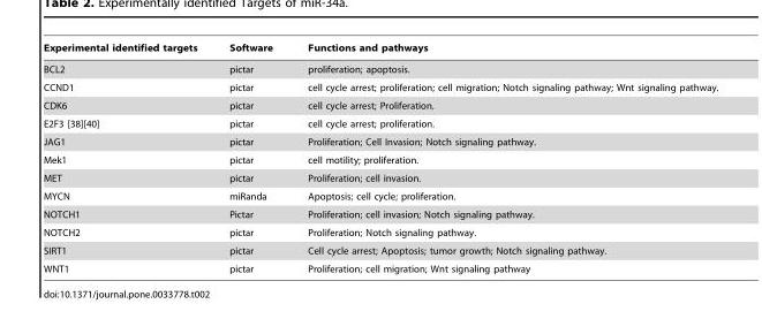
<table><thead><tr><td>Experimental identified targets</td><td>Software</td><td>Functions and pathways</td></tr></thead><tbody><tr><td>BCL2</td><td>pictar</td><td>proliferation; apoptosis.</td></tr><tr><td>CCND1</td><td>pictar</td><td>cell cycle arrest; proliferation; cell migration; Notch signaling pathway; Wnt signaling pathway.</td></tr><tr><td>CDK6</td><td>pictar</td><td>cell cycle arrest; Proliferation.</td></tr><tr><td>E2F3 [38][40]</td><td>pictar</td><td>cell cycle arrest; proliferation.</td></tr><tr><td>JAG1</td><td>pictar</td><td>Proliferation; Cell Invasion; Notch signaling pathway.</td></tr><tr><td>Mek1</td><td>pictar</td><td>cell motility; proliferation.</td></tr><tr><td>MET</td><td>pictar</td><td>Proliferation; cell invasion.</td></tr><tr><td>MYCN</td><td>miRanda</td><td>Apoptosis; cell cycle; proliferation.</td></tr><tr><td>NOTCH1</td><td>Pictar</td><td>Proliferation; cell invasion; Notch signaling pathway.</td></tr><tr><td>NOTCH2</td><td>pictar</td><td>Proliferation; Notch signaling pathway.</td></tr><tr><td>SIRT1</td><td>pictar</td><td>Cell cycle arrest; Apoptosis; tumor growth; Notch signaling pathway.</td></tr><tr><td>WNT1</td><td>pictar</td><td>Proliferation; cell migration; Wnt signaling pathway</td></tr></tbody></table>